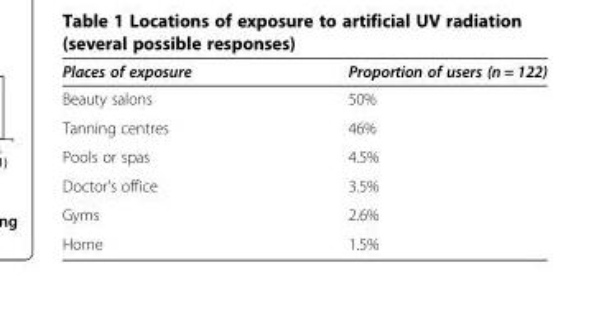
<table><thead><tr><td>Places of exposure</td><td>Proportion of users (n = 122)</td></tr></thead><tbody><tr><td>Beauty salons</td><td>50%</td></tr><tr><td>Tanning centres</td><td>46%</td></tr><tr><td>Pools or spas</td><td>4.5%</td></tr><tr><td>Doctor’s office</td><td>3.5%</td></tr><tr><td>Gyms</td><td>2.6%</td></tr><tr><td>Home</td><td>1.5%</td></tr></tbody></table>